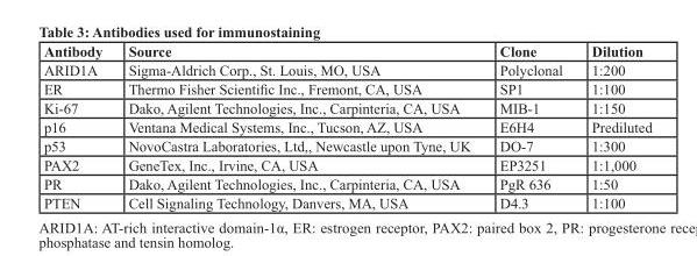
<table><thead><tr><td>Antibody</td><td>Source</td><td>Clone</td><td>Dilution</td></tr></thead><tbody><tr><td>ARID1A</td><td>Sigma-Aldrich Corp., St. Louis, MO, USA</td><td>Polyclonal</td><td>1:200</td></tr><tr><td>ER</td><td>Thermo Fisher Scientific Inc., Fremont, CA, USA</td><td>SP1</td><td>1:100</td></tr><tr><td>Ki-67</td><td>Dako, Agilent Technologies, Inc., Carpinteria, CA, USA</td><td>MIB-1</td><td>1:150</td></tr><tr><td>p16</td><td>Ventana Medical Systems, Inc., Tucson, AZ, USA</td><td>E6H4</td><td>Prediluted</td></tr><tr><td>p53</td><td>NovoCastra Laboratories, Ltd,, Newcastle upon Tyne, UK</td><td>DO-7</td><td>1:300</td></tr><tr><td>PAX2</td><td>GeneTex, Inc., Irvine, CA, USA</td><td>EP3251</td><td>1:1,000</td></tr><tr><td>PR</td><td>Dako, Agilent Technologies, Inc., Carpinteria, CA, USA</td><td>PgR 636</td><td>1:50</td></tr><tr><td>PTEN</td><td>Cell Signaling Technology, Danvers, MA, USA</td><td>D4.3</td><td>1:100</td></tr></tbody></table>